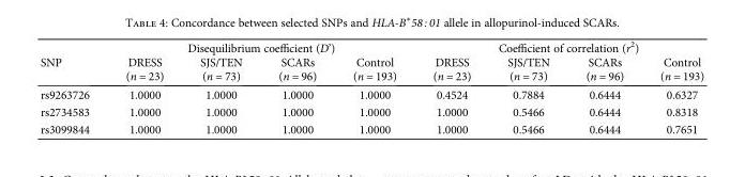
<table><thead><tr><td rowspan="2">SNP</td><td colspan="4">Disequilibrium coefficient (D’)</td><td colspan="4">Coefficient of correlation (r<sup>2</sup>)</td></tr><tr><td>DRESS (n = 23)</td><td>SJS/TEN (n = 73)</td><td>SCARs (n = 96)</td><td>Control (n = 193)</td><td>DRESS (n = 23)</td><td>SJS/TEN (n = 73)</td><td>SCARs (n = 96)</td><td>Control (n = 193)</td></tr></thead><tbody><tr><td>rs9263726</td><td>1.0000</td><td>1.0000</td><td>1.0000</td><td>1.0000</td><td>0.4524</td><td>0.7884</td><td>0.6444</td><td>0.6327</td></tr><tr><td>rs2734583</td><td>1.0000</td><td>1.0000</td><td>1.0000</td><td>1.0000</td><td>1.0000</td><td>0.5466</td><td>0.6444</td><td>0.8318</td></tr><tr><td>rs3099844</td><td>1.0000</td><td>1.0000</td><td>1.0000</td><td>1.0000</td><td>1.0000</td><td>0.5466</td><td>0.6444</td><td>0.7651</td></tr></tbody></table>